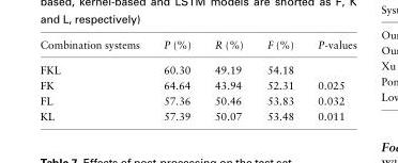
<table><thead><tr><td>Combination systems</td><td>P (%)</td><td>R (%)</td><td>F (%)</td><td>P-values</td></tr></thead><tbody><tr><td>FKL</td><td>60.30</td><td>49.19</td><td>54.18</td><td></td></tr><tr><td>FK</td><td>64.64</td><td>43.94</td><td>52.31</td><td>0.025</td></tr><tr><td>FL</td><td>57.36</td><td>50.46</td><td>53.83</td><td>0.032</td></tr><tr><td>KL</td><td>57.39</td><td>50.07</td><td>53.48</td><td>0.011</td></tr></tbody></table>